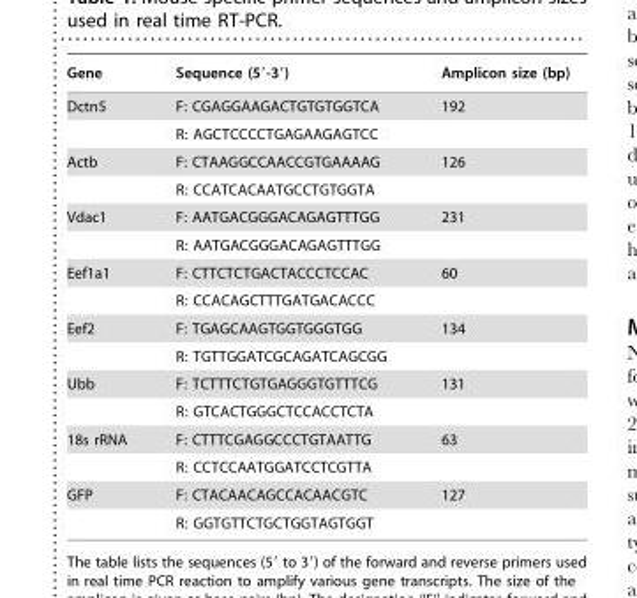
<table><thead><tr><td>Gene</td><td>Sequence (5′-3′)</td><td>Amplicon size (bp)</td></tr></thead><tbody><tr><td rowspan="2">Dctn5</td><td>F: CGAGGAAGACTGTGTGGTCA</td><td>192</td></tr><tr><td>R: AGCTCCCCTGAGAAGAGTCC</td><td></td></tr><tr><td rowspan="2">Actb</td><td>F: CTAAGGCCAACCGTGAAAAG</td><td>126</td></tr><tr><td>R: CCATCACAATGCCTGTGGTA</td><td></td></tr><tr><td rowspan="2">Vdac1</td><td>F: AATGACGGGACAGAGTTTGG</td><td>231</td></tr><tr><td>R: AATGACGGGACAGAGTTTGG</td><td></td></tr><tr><td rowspan="2">Eef1a1</td><td>F: CTTCTCTGACTACCCTCCAC</td><td>60</td></tr><tr><td>R: CCACAGCTTTGATGACACCC</td><td></td></tr><tr><td rowspan="2">Eef2</td><td>F: TGAGCAAGTGGTGGGTGG</td><td>134</td></tr><tr><td>R: TGTTGGATCGCAGATCAGCGG</td><td></td></tr><tr><td rowspan="2">Ubb</td><td>F: TCTTTCTGTGAGGGTGTTTCG</td><td>131</td></tr><tr><td>R: GTCACTGGGCTCCACCTCTA</td><td></td></tr><tr><td rowspan="2">18s rRNA</td><td>F: CTTTCGAGGCCCTGTAATTG</td><td>63</td></tr><tr><td>R: CCTCCAATGGATCCTCGTTA</td><td></td></tr><tr><td rowspan="2">GFP</td><td>F: CTACAACAGCCACAACGTC</td><td>127</td></tr><tr><td>R: GGTGTTCTGCTGGTAGTGGT</td><td></td></tr></tbody></table>